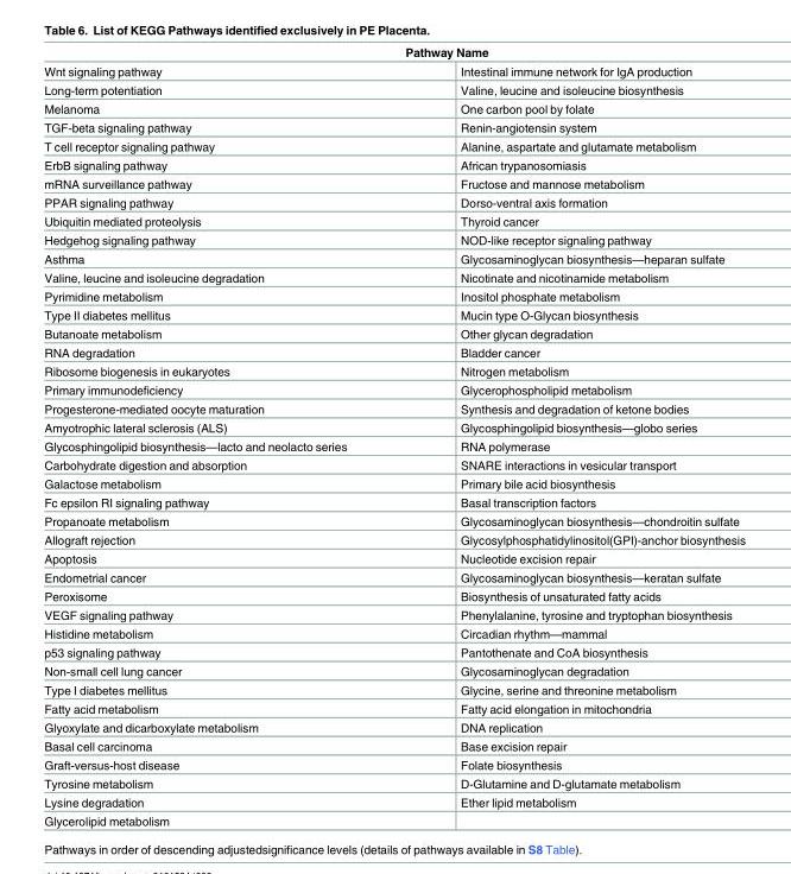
<table><thead><tr><td colspan="2">Pathway Name</td></tr><tr><td>Wnt signaling pathway</td><td>Intestinal immune network for IgA production</td></tr></thead><tbody><tr><td>Long-term potentiation</td><td>Valine, leucine and isoleucine biosynthesis</td></tr><tr><td>Melanoma</td><td>One carbon pool by folate</td></tr><tr><td>TGF-beta signaling pathway</td><td>Renin-angiotensin system</td></tr><tr><td>T cell receptor signaling pathway</td><td>Alanine, aspartate and glutamate metabolism</td></tr><tr><td>ErbB signaling pathway</td><td>African trypanosomiasis</td></tr><tr><td>mRNA surveillance pathway</td><td>Fructose and mannose metabolism</td></tr><tr><td>PPAR signaling pathway</td><td>Dorso-ventral axis formation</td></tr><tr><td>Ubiquitin mediated proteolysis</td><td>Thyroid cancer</td></tr><tr><td>Hedgehog signaling pathway</td><td>NOD-like receptor signaling pathway</td></tr><tr><td>Asthma</td><td>Glycosaminoglycan biosynthesis—heparan sulfate</td></tr><tr><td>Valine, leucine and isoleucine degradation</td><td>Nicotinate and nicotinamide metabolism</td></tr><tr><td>Pyrimidine metabolism</td><td>Inositol phosphate metabolism</td></tr><tr><td>Type II diabetes mellitus</td><td>Mucin type O-Glycan biosynthesis</td></tr><tr><td>Butanoate metabolism</td><td>Other glycan degradation</td></tr><tr><td>RNA degradation</td><td>Bladder cancer</td></tr><tr><td>Ribosome biogenesis in eukaryotes</td><td>Nitrogen metabolism</td></tr><tr><td>Primary immunodeficiency</td><td>Glycerophospholipid metabolism</td></tr><tr><td>Progesterone-mediated oocyte maturation</td><td>Synthesis and degradation of ketone bodies</td></tr><tr><td>Amyotrophic lateral sclerosis (ALS)</td><td>Glycosphingolipid biosynthesis—globo series</td></tr><tr><td>Glycosphingolipid biosynthesis—lacto and neolacto series</td><td>RNA polymerase</td></tr><tr><td>Carbohydrate digestion and absorption</td><td>SNARE interactions in vesicular transport</td></tr><tr><td>Galactose metabolism</td><td>Primary bile acid biosynthesis</td></tr><tr><td>Fc epsilon RI signaling pathway</td><td>Basal transcription factors</td></tr><tr><td>Propanoate metabolism</td><td>Glycosaminoglycan biosynthesis—chondroitin sulfate</td></tr><tr><td>Allograft rejection</td><td>Glycosylphosphatidylinositol(GPI)-anchor biosynthesis</td></tr><tr><td>Apoptosis</td><td>Nucleotide excision repair</td></tr><tr><td>Endometrial cancer</td><td>Glycosaminoglycan biosynthesis—keratan sulfate</td></tr><tr><td>Peroxisome</td><td>Biosynthesis of unsaturated fatty acids</td></tr><tr><td>VEGF signaling pathway</td><td>Phenylalanine, tyrosine and tryptophan biosynthesis</td></tr><tr><td>Histidine metabolism</td><td>Circadian rhythm—mammal</td></tr><tr><td>p53 signaling pathway</td><td>Pantothenate and CoA biosynthesis</td></tr><tr><td>Non-small cell lung cancer</td><td>Glycosaminoglycan degradation</td></tr><tr><td>Type I diabetes mellitus</td><td>Glycine, serine and threonine metabolism</td></tr><tr><td>Fatty acid metabolism</td><td>Fatty acid elongation in mitochondria</td></tr><tr><td>Glyoxylate and dicarboxylate metabolism</td><td>DNA replication</td></tr><tr><td>Basal cell carcinoma</td><td>Base excision repair</td></tr><tr><td>Graft-versus-host disease</td><td>Folate biosynthesis</td></tr><tr><td>Tyrosine metabolism</td><td>D-Glutamine and D-glutamate metabolism</td></tr><tr><td>Lysine degradation</td><td>Ether lipid metabolism</td></tr><tr><td>Glycerolipid metabolism</td><td></td></tr></tbody></table>